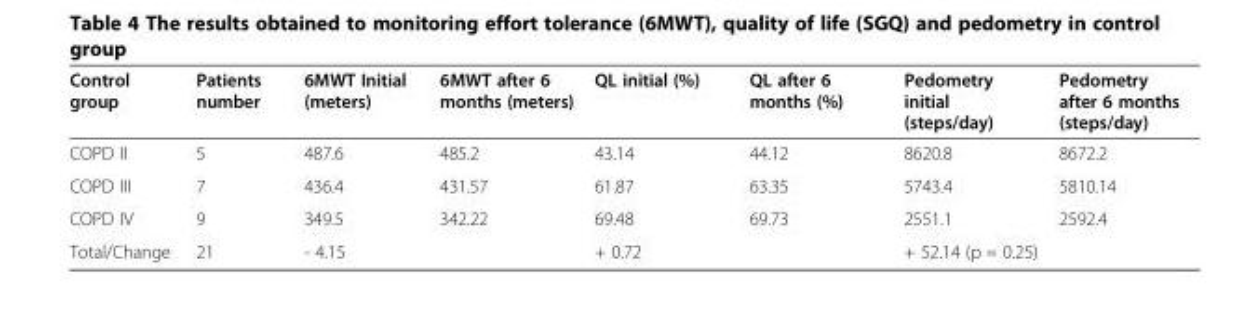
<table><thead><tr><td>Control group</td><td>Patients number</td><td>6MWT Initial (meters)</td><td>6MWT after 6 months (meters)</td><td>QL initial (%)</td><td>QL after 6 months (%)</td><td>Pedometry initial (steps/day)</td><td>Pedometry after 6 months (steps/day)</td></tr></thead><tbody><tr><td>COPD II</td><td>5</td><td>487.6</td><td>485.2</td><td>43.14</td><td>44.12</td><td>8620.8</td><td>8672.2</td></tr><tr><td>COPD III</td><td>7</td><td>436.4</td><td>431.57</td><td>61.87</td><td>63.35</td><td>5743.4</td><td>5810.14</td></tr><tr><td>COPD IV</td><td>9</td><td>349.5</td><td>342.22</td><td>69.48</td><td>69.73</td><td>2551.1</td><td>2592.4</td></tr><tr><td>Total/Change</td><td>21</td><td>- 4.15</td><td></td><td>+ 0.72</td><td></td><td>+ 52.14 (p = 0.25)</td><td></td></tr></tbody></table>